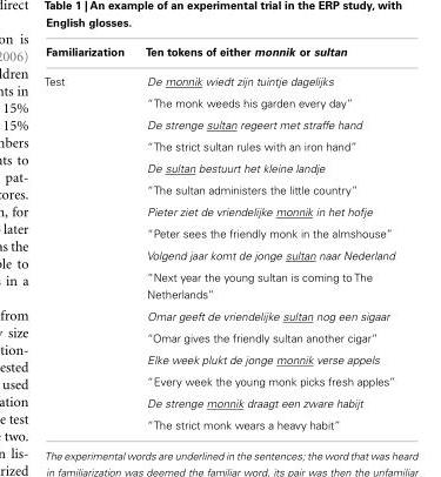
<table><thead><tr><td>Familiarization</td><td>Ten tokens of either monnik or sultan</td></tr></thead><tbody><tr><td rowspan="16">Test</td><td>De monnik wiedt zijn tuintje dagelijks</td></tr><tr><td>“The monk weeds his garden every day”</td></tr><tr><td>De strenge sultan regeert met straffe hand</td></tr><tr><td>“The strict sultan rules with an iron hand”</td></tr><tr><td>De sultan bestuurt het kleine landje</td></tr><tr><td>“The sultan administers the little country”</td></tr><tr><td>Pieter ziet de vriendelijke monnik in het hofje</td></tr><tr><td>“Peter sees the friendly monk in the almshouse”</td></tr><tr><td>Volgend jaar komt de jonge sultan naar Nederland</td></tr><tr><td>“Next year the young sultan is coming to The Netherlands”</td></tr><tr><td>Omar geeft de vriendelijke sultan nog een sigaar</td></tr><tr><td>“Omar gives the friendly sultan another cigar”</td></tr><tr><td>Elke week plukt de jonge monnik verse appels</td></tr><tr><td>“Every week the young monk picks fresh apples”</td></tr><tr><td>De strenge monnik draagt een zware habijt</td></tr><tr><td>“The strict monk wears a heavy habit”</td></tr></tbody></table>